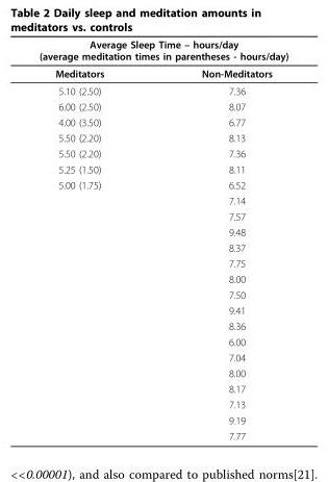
<table><thead><tr><td colspan="2">Average Sleep Time – hours/day (average meditation times in parentheses - hours/day)</td></tr><tr><td>Meditators</td><td>Non-Meditators</td></tr></thead><tbody><tr><td>5.10 (2.50)</td><td>7.36</td></tr><tr><td>6.00 (2.50)</td><td>8.07</td></tr><tr><td>4.00 (3.50)</td><td>6.77</td></tr><tr><td>5.50 (2.20)</td><td>8.13</td></tr><tr><td>5.50 (2.20)</td><td>7.36</td></tr><tr><td>5.25 (1.50)</td><td>8.11</td></tr><tr><td rowspan="17">5.00 (1.75)</td><td>6.52</td></tr><tr><td>7.14</td></tr><tr><td>7.57</td></tr><tr><td>9.48</td></tr><tr><td>8.37</td></tr><tr><td>7.75</td></tr><tr><td>8.00</td></tr><tr><td>7.50</td></tr><tr><td>9.41</td></tr><tr><td>8.36</td></tr><tr><td>6.00</td></tr><tr><td>7.04</td></tr><tr><td>8.00</td></tr><tr><td>8.17</td></tr><tr><td>7.13</td></tr><tr><td>9.19</td></tr><tr><td>7.77</td></tr></tbody></table>